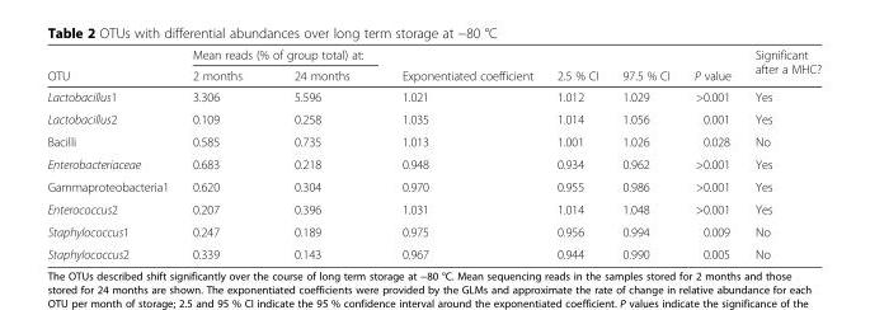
<table><thead><tr><td rowspan="2">OTU</td><td colspan="2">Mean reads (% of group total) at:</td><td rowspan="2">Exponentiated coefficient</td><td rowspan="2">2.5 % CI</td><td rowspan="2">97.5 % CI</td><td rowspan="2">P value</td><td rowspan="2">Significant after a MHC?</td></tr><tr><td>2 months</td><td>24 months</td></tr></thead><tbody><tr><td>Lactobacillus1</td><td>3.306</td><td>5.596</td><td>1.021</td><td>1.012</td><td>1.029</td><td>&gt;0.001</td><td>Yes</td></tr><tr><td>Lactobacillus2</td><td>0.109</td><td>0.258</td><td>1.035</td><td>1.014</td><td>1.056</td><td>0.001</td><td>Yes</td></tr><tr><td>Bacilli</td><td>0.585</td><td>0.735</td><td>1.013</td><td>1.001</td><td>1.026</td><td>0.028</td><td>No</td></tr><tr><td>Enterobacteriaceae</td><td>0.683</td><td>0.218</td><td>0.948</td><td>0.934</td><td>0.962</td><td>&gt;0.001</td><td>Yes</td></tr><tr><td>Gammaproteobacteria1</td><td>0.620</td><td>0.304</td><td>0.970</td><td>0.955</td><td>0.986</td><td>&gt;0.001</td><td>Yes</td></tr><tr><td>Enterococcus2</td><td>0.207</td><td>0.396</td><td>1.031</td><td>1.014</td><td>1.048</td><td>&gt;0.001</td><td>Yes</td></tr><tr><td>Staphylococcus1</td><td>0.247</td><td>0.189</td><td>0.975</td><td>0.956</td><td>0.994</td><td>0.009</td><td>No</td></tr><tr><td>Staphylococcus2</td><td>0.339</td><td>0.143</td><td>0.967</td><td>0.944</td><td>0.990</td><td>0.005</td><td>No</td></tr></tbody></table>